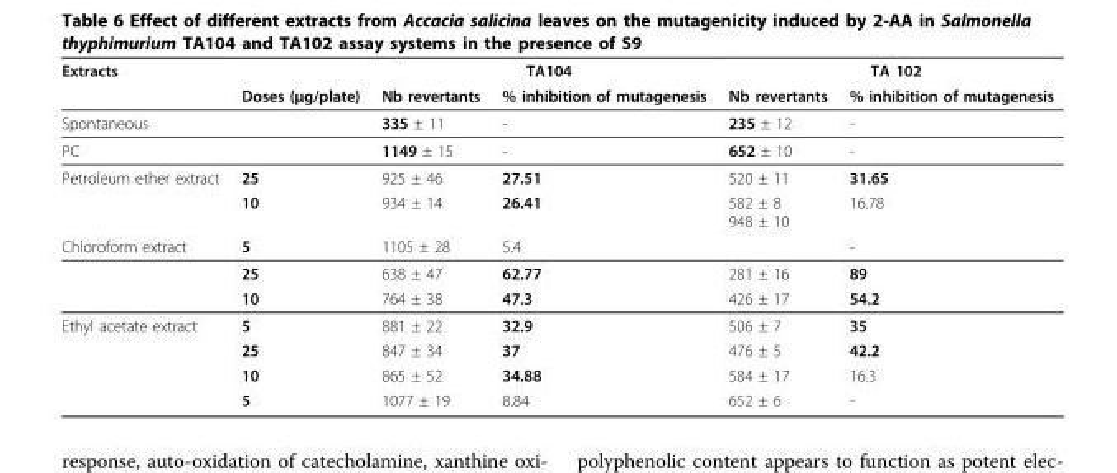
<table><thead><tr><td rowspan="2">Extracts</td><td rowspan="2">Doses (μg/plate)</td><td colspan="2">TA104</td><td colspan="2">TA 102</td></tr><tr><td>Nb revertants</td><td>% inhibition of mutagenesis</td><td>Nb revertants</td><td>% inhibition of mutagenesis</td></tr></thead><tbody><tr><td>Spontaneous</td><td></td><td>335 ± 11</td><td>-</td><td>235 ± 12</td><td>-</td></tr><tr><td>PC</td><td></td><td>1149 ± 15</td><td>-</td><td>652 ± 10</td><td>-</td></tr><tr><td rowspan="2">Petroleum ether extract</td><td>25</td><td>925 ± 46</td><td>27.51</td><td>520 ± 11</td><td>31.65</td></tr><tr><td>10</td><td>934 ± 14</td><td>26.41</td><td>582 ± 8 948 ± 10</td><td>16.78</td></tr><tr><td rowspan="3">Chloroform extract</td><td>5</td><td>1105 ± 28</td><td>5.4</td><td></td><td>-</td></tr><tr><td>25</td><td>638 ± 47</td><td>62.77</td><td>281 ± 16</td><td>89</td></tr><tr><td>10</td><td>764 ± 38</td><td>47.3</td><td>426 ± 17</td><td>54.2</td></tr><tr><td rowspan="4">Ethyl acetate extract</td><td>5</td><td>881 ± 22</td><td>32.9</td><td>506 ± 7</td><td>35</td></tr><tr><td>25</td><td>847 ± 34</td><td>37</td><td>476 ± 5</td><td>42.2</td></tr><tr><td>10</td><td>865 ± 52</td><td>34.88</td><td>584 ± 17</td><td>16.3</td></tr><tr><td>5</td><td>1077 ± 19</td><td>8.84</td><td>652 ± 6</td><td>-</td></tr></tbody></table>